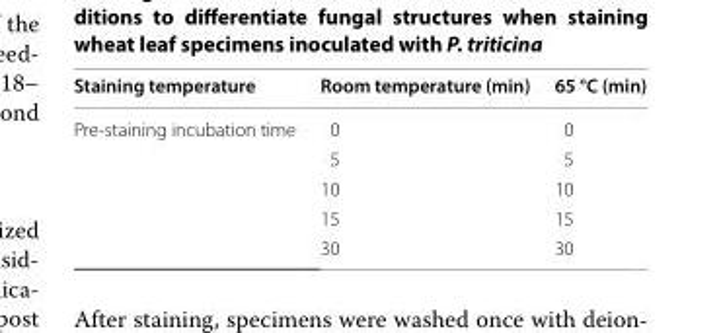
<table><thead><tr><td>Staining temperature</td><td>Room temperature (min)</td><td>65 °C (min)</td></tr></thead><tbody><tr><td rowspan="5">Pre-staining incubation time</td><td>0</td><td>0</td></tr><tr><td>5</td><td>5</td></tr><tr><td>10</td><td>10</td></tr><tr><td>15</td><td>15</td></tr><tr><td>30</td><td>30</td></tr></tbody></table>